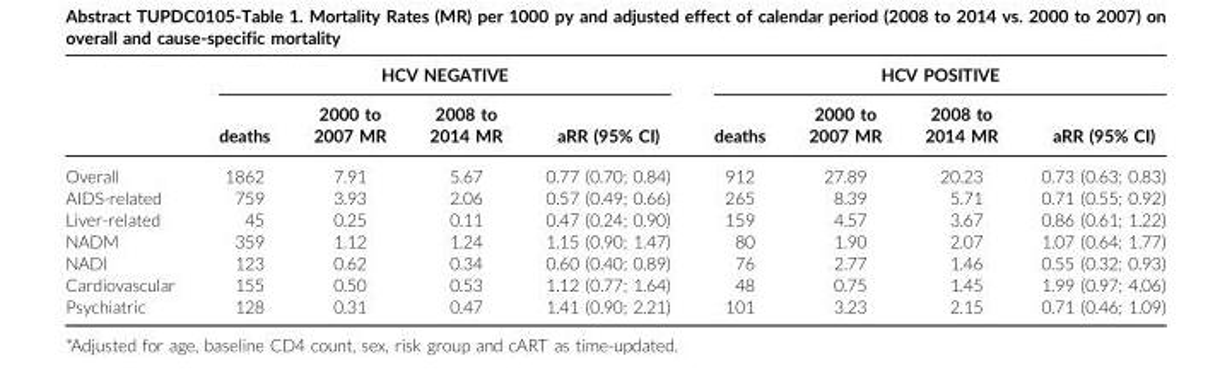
<table><thead><tr><td rowspan="2"></td><td colspan="4">HCV NEGATIVE</td><td colspan="4">HCV POSITIVE</td></tr><tr><td>deaths</td><td>2000 to 2007 MR</td><td>2008 to 2014 MR</td><td>aRR (95% CI)</td><td>deaths</td><td>2000 to 2007 MR</td><td>2008 to 2014 MR</td><td>aRR (95% CI)</td></tr></thead><tbody><tr><td>Overall</td><td>1862</td><td>7.91</td><td>5.67</td><td>0.77 (0.70; 0.84)</td><td>912</td><td>27.89</td><td>20.23</td><td>0.73 (0.63; 0.83)</td></tr><tr><td>AIDS-related</td><td>759</td><td>3.93</td><td>2.06</td><td>0.57 (0.49; 0.66)</td><td>265</td><td>8.39</td><td>5.71</td><td>0.71 (0.55; 0.92)</td></tr><tr><td>Liver-related</td><td>45</td><td>0.25</td><td>0.11</td><td>0.47 (0.24; 0.90)</td><td>159</td><td>4.57</td><td>3.67</td><td>0.86 (0.61; 1.22)</td></tr><tr><td>NADM</td><td>359</td><td>1.12</td><td>1.24</td><td>1.15 (0.90; 1.47)</td><td>80</td><td>1.90</td><td>2.07</td><td>1.07 (0.64; 1.77)</td></tr><tr><td>NADI</td><td>123</td><td>0.62</td><td>0.34</td><td>0.60 (0.40; 0.89)</td><td>76</td><td>2.77</td><td>1.46</td><td>0.55 (0.32; 0.93)</td></tr><tr><td>Cardiovascular</td><td>155</td><td>0.50</td><td>0.53</td><td>1.12 (0.77; 1.64)</td><td>48</td><td>0.75</td><td>1.45</td><td>1.99 (0.97; 4.06)</td></tr><tr><td>Psychiatric</td><td>128</td><td>0.31</td><td>0.47</td><td>1.41 (0.90; 2.21)</td><td>101</td><td>3.23</td><td>2.15</td><td>0.71 (0.46; 1.09)</td></tr></tbody></table>